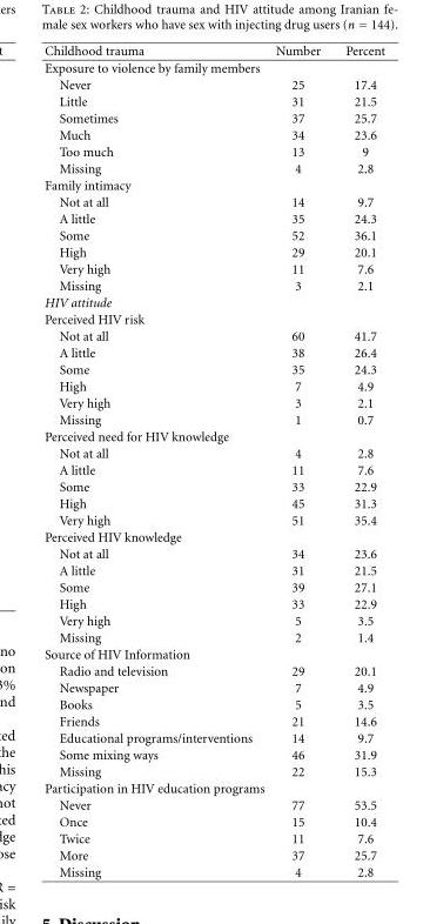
<table><thead><tr><td>Childhood trauma</td><td>Number</td><td>Percent</td></tr></thead><tbody><tr><td colspan="3">Exposure to violence by family members</td></tr><tr><td>Never</td><td>25</td><td>17.4</td></tr><tr><td>Little</td><td>31</td><td>21.5</td></tr><tr><td>Sometimes</td><td>37</td><td>25.7</td></tr><tr><td>Much</td><td>34</td><td>23.6</td></tr><tr><td>Too much</td><td>13</td><td>9</td></tr><tr><td>Missing</td><td>4</td><td>2.8</td></tr><tr><td colspan="3">Family intimacy</td></tr><tr><td>Not at all</td><td>14</td><td>9.7</td></tr><tr><td>A little</td><td>35</td><td>24.3</td></tr><tr><td>Some</td><td>52</td><td>36.1</td></tr><tr><td>High</td><td>29</td><td>20.1</td></tr><tr><td>Very high</td><td>11</td><td>7.6</td></tr><tr><td>Missing</td><td>3</td><td>2.1</td></tr><tr><td colspan="3">HIV attitude</td></tr><tr><td colspan="3">Perceived HIV risk</td></tr><tr><td>Not at all</td><td>60</td><td>41.7</td></tr><tr><td>A little</td><td>38</td><td>26.4</td></tr><tr><td>Some</td><td>35</td><td>24.3</td></tr><tr><td>High</td><td>7</td><td>4.9</td></tr><tr><td>Very high</td><td>3</td><td>2.1</td></tr><tr><td>Missing</td><td>1</td><td>0.7</td></tr><tr><td colspan="3">Perceived need for HIV knowledge</td></tr><tr><td>Not at all</td><td>4</td><td>2.8</td></tr><tr><td>A little</td><td>11</td><td>7.6</td></tr><tr><td>Some</td><td>33</td><td>22.9</td></tr><tr><td>High</td><td>45</td><td>31.3</td></tr><tr><td>Very high</td><td>51</td><td>35.4</td></tr><tr><td colspan="3">Perceived HIV knowledge</td></tr><tr><td>Not at all</td><td>34</td><td>23.6</td></tr><tr><td>A little</td><td>31</td><td>21.5</td></tr><tr><td>Some</td><td>39</td><td>27.1</td></tr><tr><td>High</td><td>33</td><td>22.9</td></tr><tr><td>Very high</td><td>5</td><td>3.5</td></tr><tr><td>Missing</td><td>2</td><td>1.4</td></tr><tr><td colspan="3">Source of HIV Information</td></tr><tr><td>Radio and television</td><td>29</td><td>20.1</td></tr><tr><td>Newspaper</td><td>7</td><td>4.9</td></tr><tr><td>Books</td><td>5</td><td>3.5</td></tr><tr><td>Friends</td><td>21</td><td>14.6</td></tr><tr><td>Educational programs/interventions</td><td>14</td><td>9.7</td></tr><tr><td>Some mixing ways</td><td>46</td><td>31.9</td></tr><tr><td>Missing</td><td>22</td><td>15.3</td></tr><tr><td colspan="3">Participation in HIV education programs</td></tr><tr><td>Never</td><td>77</td><td>53.5</td></tr><tr><td>Once</td><td>15</td><td>10.4</td></tr><tr><td>Twice</td><td>11</td><td>7.6</td></tr><tr><td>More</td><td>37</td><td>25.7</td></tr><tr><td>Missing</td><td>4</td><td>2.8</td></tr></tbody></table>